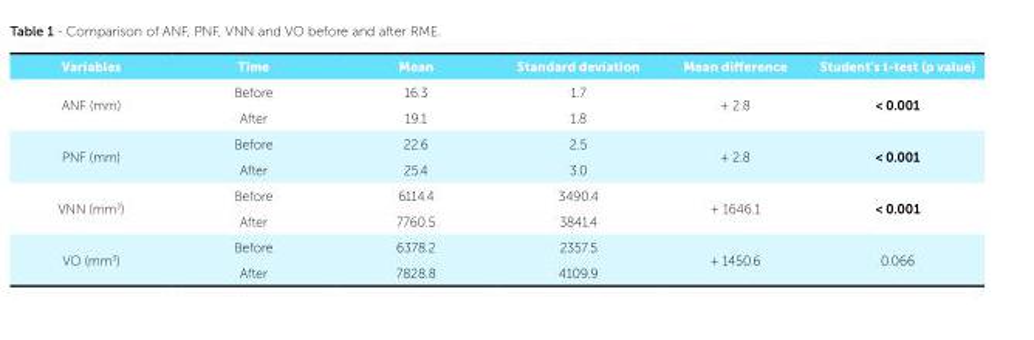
<table><thead><tr><td>Variables</td><td>Time</td><td>Mean</td><td>Standard deviation</td><td>Mean difference</td><td>Student’s t-test (p value)</td></tr></thead><tbody><tr><td rowspan="2">ANF (mm)</td><td>Before</td><td>16.3</td><td>1.7</td><td rowspan="2">+ 2.8</td><td rowspan="2">&lt; 0.001</td></tr><tr><td>After</td><td>19.1</td><td>1.8</td></tr><tr><td rowspan="2">PNF (mm)</td><td>Before</td><td>22.6</td><td>2.5</td><td rowspan="2">+ 2.8</td><td rowspan="2">&lt; 0.001</td></tr><tr><td>After</td><td>25.4</td><td>3.0</td></tr><tr><td rowspan="2">VNN (mm<sup>3</sup>)</td><td>Before</td><td>6114.4</td><td>3490.4</td><td rowspan="2">+ 1646.1</td><td rowspan="2">&lt; 0.001</td></tr><tr><td>After</td><td>7760.5</td><td>3841.4</td></tr><tr><td rowspan="2">VO (mm<sup>3</sup>)</td><td>Before</td><td>6378.2</td><td>2357.5</td><td rowspan="2">+ 1450.6</td><td rowspan="2">0.066</td></tr><tr><td>After</td><td>7828.8</td><td>4109.9</td></tr></tbody></table>